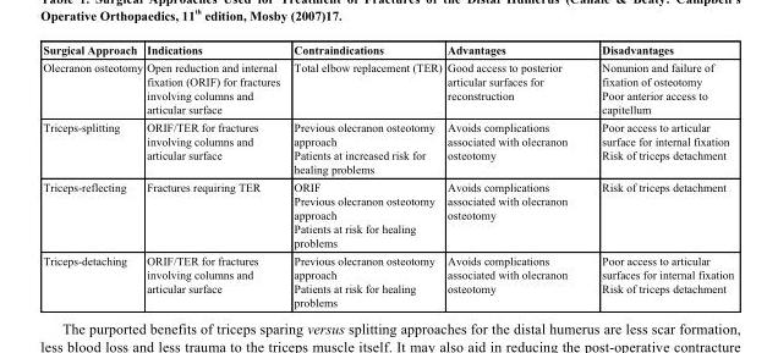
<table><thead><tr><td>Surgical Approach</td><td>Indications</td><td>Contraindications</td><td>Advantages</td><td>Disadvantages</td></tr></thead><tbody><tr><td>Olecranon osteotomy</td><td>Open reduction and internal fixation (ORIF) for fractures involving columns and articular surface</td><td>Total elbow replacement (TER)</td><td>Good access to posterior articular surfaces for reconstruction</td><td>Nonunion and failure of fixation of osteotomy Poor anterior access to capitellum</td></tr><tr><td>Triceps-splitting</td><td>ORIF/TER for fractures involving columns and articular surface</td><td>Previous olecranon osteotomy approach Patients at increased risk for healing problems</td><td>Avoids complications associated with olecranon osteotomy</td><td>Poor access to articular surface for internal fixation Risk of triceps detachment</td></tr><tr><td>Triceps-reflecting</td><td>Fractures requiring TER</td><td>ORIF Previous olecranon osteotomy approach Patients at risk for healing problems</td><td>Avoids complications associated with olecranon osteotomy</td><td>Risk of triceps detachment</td></tr><tr><td>Triceps-detaching</td><td>ORIF/TER for fractures involving columns and articular surface</td><td>Previous olecranon osteotomy approach Patients at risk for healing problems</td><td>Avoids complications associated with olecranon osteotomy</td><td>Poor access to articular surfaces for internal fixation Risk of triceps detachment</td></tr></tbody></table>